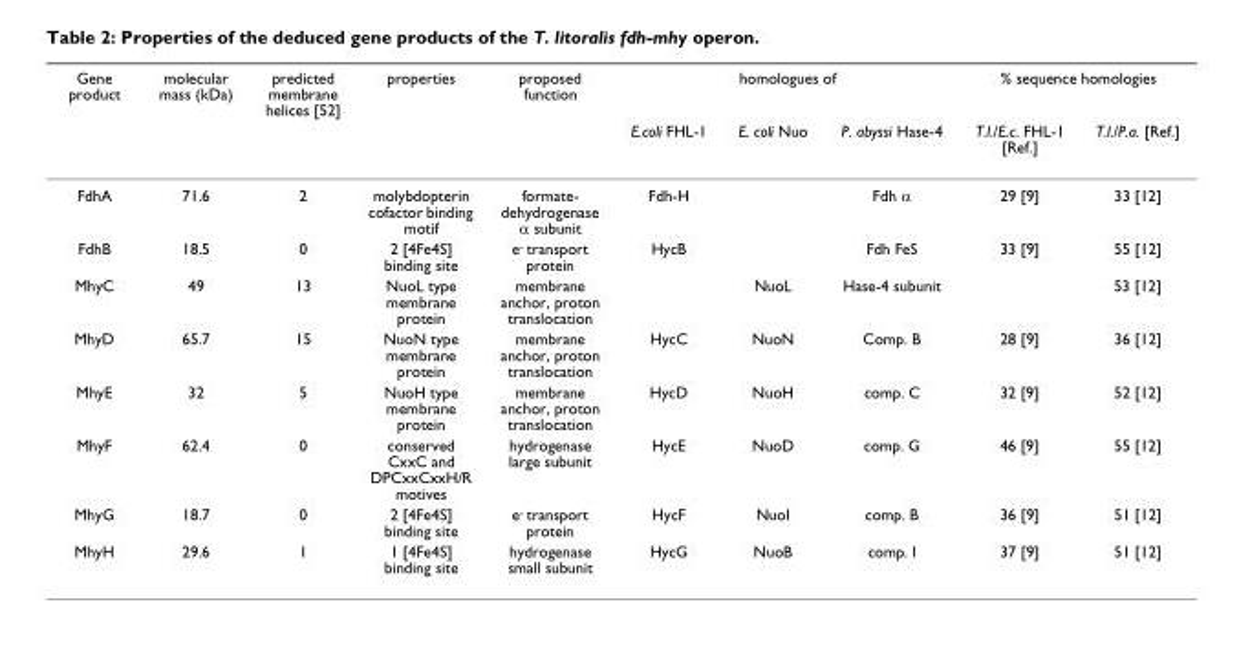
<table><thead><tr><td rowspan="2">Gene product</td><td rowspan="2">molecular mass (kDa)</td><td rowspan="2">predicted membrane helices [52]</td><td rowspan="2">properties</td><td rowspan="2">proposed function</td><td colspan="3">homologues of</td><td colspan="2">% sequence homologies</td></tr><tr><td>E.coli FHL-1</td><td>E. coli Nuo</td><td>P. abyssi Hase-4</td><td>T.l./E.c. FHL-1 [Ref.]</td><td>T.l./P.a. [Ref.]</td></tr></thead><tbody><tr><td>FdhA</td><td>71.6</td><td>2</td><td>molybdopterin cofactor binding motif</td><td>formate- dehydrogenase α subunit</td><td>Fdh-H</td><td></td><td>Fdh α</td><td>29 [9]</td><td>33 [12]</td></tr><tr><td>FdhB</td><td>18.5</td><td>0</td><td>2 [4Fe4S] binding site</td><td>e<sup>-</sup> transport protein</td><td>HycB</td><td></td><td>Fdh FeS</td><td>33 [9]</td><td>55 [12]</td></tr><tr><td>MhyC</td><td>49</td><td>13</td><td>NuoL type membrane protein</td><td>membrane anchor, proton translocation</td><td></td><td>NuoL</td><td>Hase-4 subunit</td><td></td><td>53 [12]</td></tr><tr><td>MhyD</td><td>65.7</td><td>15</td><td>NuoN type membrane protein</td><td>membrane anchor, proton translocation</td><td>HycC</td><td>NuoN</td><td>Comp. B</td><td>28 [9]</td><td>36 [12]</td></tr><tr><td>MhyE</td><td>32</td><td>5</td><td>NuoH type membrane protein</td><td>membrane anchor, proton translocation</td><td>HycD</td><td>NuoH</td><td>comp. C</td><td>32 [9]</td><td>52 [12]</td></tr><tr><td>MhyF</td><td>62.4</td><td>0</td><td>conserved CxxC and DPCxxCxxH/R motives</td><td>hydrogenase large subunit</td><td>HycE</td><td>NuoD</td><td>comp. G</td><td>46 [9]</td><td>55 [12]</td></tr><tr><td>MhyG</td><td>18.7</td><td>0</td><td>2 [4Fe4S] binding site</td><td>e<sup>-</sup> transport protein</td><td>HycF</td><td>NuoI</td><td>comp. B</td><td>36 [9]</td><td>51 [12]</td></tr><tr><td>MhyH</td><td>29.6</td><td>1</td><td>1 [4Fe4S] binding site</td><td>hydrogenase small subunit</td><td>HycG</td><td>NuoB</td><td>comp. I</td><td>37 [9]</td><td>51 [12]</td></tr></tbody></table>